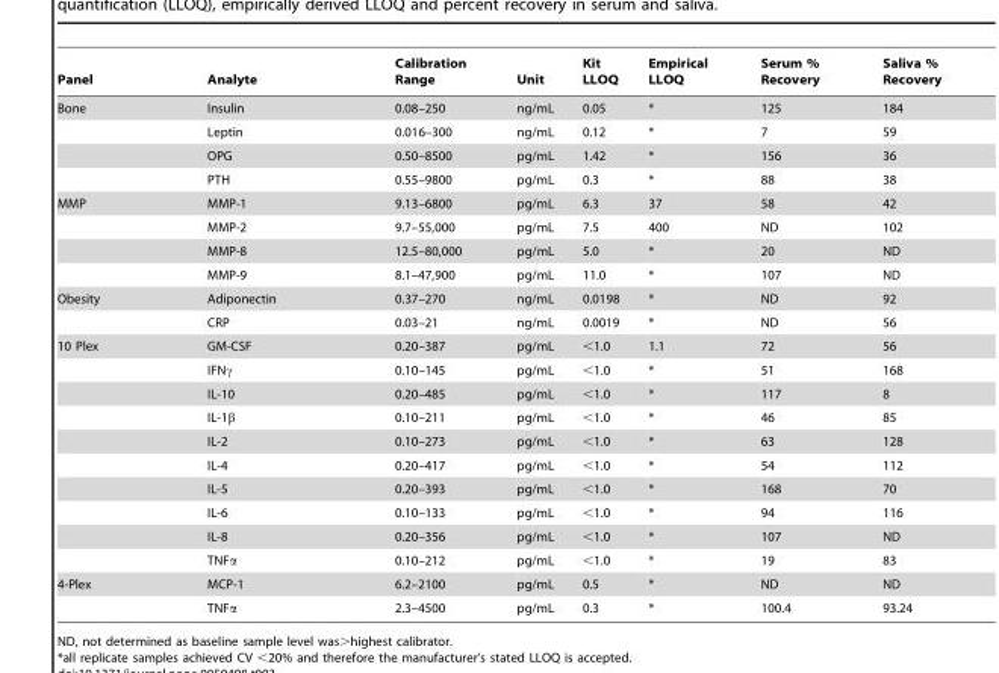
<table><thead><tr><td>Panel</td><td>Analyte</td><td>Calibration Range</td><td>Unit</td><td>Kit LLOQ</td><td>Empirical LLOQ</td><td>Serum % Recovery</td><td>Saliva % Recovery</td></tr></thead><tbody><tr><td rowspan="4">Bone</td><td>Insulin</td><td>0.08–250</td><td>ng/mL</td><td>0.05</td><td>*</td><td>125</td><td>184</td></tr><tr><td>Leptin</td><td>0.016–300</td><td>ng/mL</td><td>0.12</td><td>*</td><td>7</td><td>59</td></tr><tr><td>OPG</td><td>0.50–8500</td><td>pg/mL</td><td>1.42</td><td>*</td><td>156</td><td>36</td></tr><tr><td>PTH</td><td>0.55–9800</td><td>pg/mL</td><td>0.3</td><td>*</td><td>88</td><td>38</td></tr><tr><td rowspan="4">MMP</td><td>MMP-1</td><td>9.13–6800</td><td>pg/mL</td><td>6.3</td><td>37</td><td>58</td><td>42</td></tr><tr><td>MMP-2</td><td>9.7–55,000</td><td>pg/mL</td><td>7.5</td><td>400</td><td>ND</td><td>102</td></tr><tr><td>MMP-8</td><td>12.5–80,000</td><td>pg/mL</td><td>5.0</td><td>*</td><td>20</td><td>ND</td></tr><tr><td>MMP-9</td><td>8.1–47,900</td><td>pg/mL</td><td>11.0</td><td>*</td><td>107</td><td>ND</td></tr><tr><td rowspan="2">Obesity</td><td>Adiponectin</td><td>0.37–270</td><td>ng/mL</td><td>0.0198</td><td>*</td><td>ND</td><td>92</td></tr><tr><td>CRP</td><td>0.03–21</td><td>ng/mL</td><td>0.0019</td><td>*</td><td>ND</td><td>56</td></tr><tr><td rowspan="10">10 Plex</td><td>GM-CSF</td><td>0.20–387</td><td>pg/mL</td><td>&lt;1.0</td><td>1.1</td><td>72</td><td>56</td></tr><tr><td>IFNγ</td><td>0.10–145</td><td>pg/mL</td><td>&lt;1.0</td><td>*</td><td>51</td><td>168</td></tr><tr><td>IL-10</td><td>0.20–485</td><td>pg/mL</td><td>&lt;1.0</td><td>*</td><td>117</td><td>8</td></tr><tr><td>IL-1β</td><td>0.10–211</td><td>pg/mL</td><td>&lt;1.0</td><td>*</td><td>46</td><td>85</td></tr><tr><td>IL-2</td><td>0.10–273</td><td>pg/mL</td><td>&lt;1.0</td><td>*</td><td>63</td><td>128</td></tr><tr><td>IL-4</td><td>0.20–417</td><td>pg/mL</td><td>&lt;1.0</td><td>*</td><td>54</td><td>112</td></tr><tr><td>IL-5</td><td>0.20–393</td><td>pg/mL</td><td>&lt;1.0</td><td>*</td><td>168</td><td>70</td></tr><tr><td>IL-6</td><td>0.10–133</td><td>pg/mL</td><td>&lt;1.0</td><td>*</td><td>94</td><td>116</td></tr><tr><td>IL-8</td><td>0.20–356</td><td>pg/mL</td><td>&lt;1.0</td><td>*</td><td>107</td><td>ND</td></tr><tr><td>TNFα</td><td>0.10–212</td><td>pg/mL</td><td>&lt;1.0</td><td>*</td><td>19</td><td>83</td></tr><tr><td rowspan="2">4-Plex</td><td>MCP-1</td><td>6.2–2100</td><td>pg/mL</td><td>0.5</td><td>*</td><td>ND</td><td>ND</td></tr><tr><td>TNFα</td><td>2.3–4500</td><td>pg/mL</td><td>0.3</td><td>*</td><td>100.4</td><td>93.24</td></tr></tbody></table>